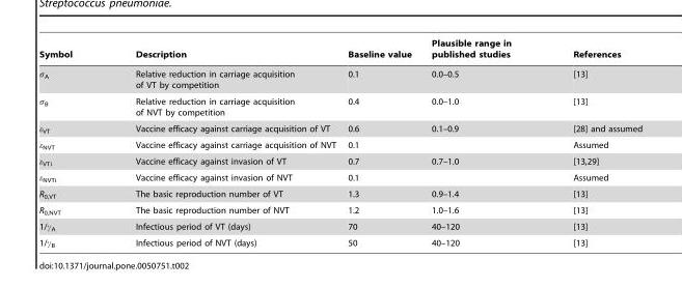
<table><thead><tr><td>Symbol</td><td>Description</td><td>Baseline value</td><td>Plausible range in published studies</td><td>References</td></tr></thead><tbody><tr><td>σ<sub>A</sub></td><td>Relative reduction in carriage acquisition of VT by competition</td><td>0.1</td><td>0.0–0.5</td><td>[13]</td></tr><tr><td>σ<sub>B</sub></td><td>Relative reduction in carriage acquisition of NVT by competition</td><td>0.4</td><td>0.0–1.0</td><td>[13]</td></tr><tr><td>ε<sub>VT</sub></td><td>Vaccine efficacy against carriage acquisition of VT</td><td>0.6</td><td>0.1–0.9</td><td>[28] and assumed</td></tr><tr><td>ε<sub>NVT</sub></td><td>Vaccine efficacy against carriage acquisition of NVT</td><td>0.1</td><td></td><td>Assumed</td></tr><tr><td>ε<sub>VTi</sub></td><td>Vaccine efficacy against invasion of VT</td><td>0.7</td><td>0.7–1.0</td><td>[13,29]</td></tr><tr><td>ε<sub>NVTi</sub></td><td>Vaccine efficacy against invasion of NVT</td><td>0.1</td><td></td><td>Assumed</td></tr><tr><td>R<sub>0,VT</sub></td><td>The basic reproduction number of VT</td><td>1.3</td><td>0.9–1.4</td><td>[13]</td></tr><tr><td>R<sub>0,NVT</sub></td><td>The basic reproduction number of NVT</td><td>1.2</td><td>1.0–1.6</td><td>[13]</td></tr><tr><td>1/γ<sub>A</sub></td><td>Infectious period of VT (days)</td><td>70</td><td>40–120</td><td>[13]</td></tr><tr><td>1/γ<sub>B</sub></td><td>Infectious period of NVT (days)</td><td>50</td><td>40–120</td><td>[13]</td></tr></tbody></table>